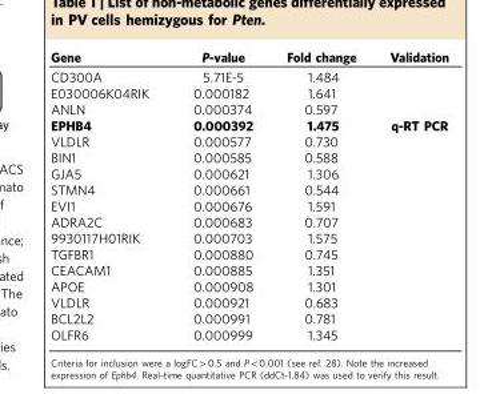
<table><thead><tr><td>Gene</td><td>P-value</td><td>Fold change</td><td>Validation</td></tr></thead><tbody><tr><td>CD300A</td><td>5.71E-5</td><td>1.484</td><td></td></tr><tr><td>E030006K04RIK</td><td>0.000182</td><td>1.641</td><td></td></tr><tr><td>ANLN</td><td>0.000374</td><td>0.597</td><td></td></tr><tr><td>EPHB4</td><td>0.000392</td><td>1.475</td><td>q-RT PCR</td></tr><tr><td>VLDLR</td><td>0.000577</td><td>0.730</td><td></td></tr><tr><td>BIN1</td><td>0.000585</td><td>0.588</td><td></td></tr><tr><td>GJA5</td><td>0.000621</td><td>1.306</td><td></td></tr><tr><td>STMN4</td><td>0.000661</td><td>0.544</td><td></td></tr><tr><td>EVI1</td><td>0.000676</td><td>1.591</td><td></td></tr><tr><td>ADRA2C</td><td>0.000683</td><td>0.707</td><td></td></tr><tr><td>9930117H01RIK</td><td>0.000703</td><td>1.575</td><td></td></tr><tr><td>TGFBR1</td><td>0.000880</td><td>0.745</td><td></td></tr><tr><td>CEACAM1</td><td>0.000885</td><td>1.351</td><td></td></tr><tr><td>APOE</td><td>0.000908</td><td>1.301</td><td></td></tr><tr><td>VLDLR</td><td>0.000921</td><td>0.683</td><td></td></tr><tr><td>BCL2L2</td><td>0.000991</td><td>0.781</td><td></td></tr><tr><td>OLFR6</td><td>0.000999</td><td>1.345</td><td></td></tr></tbody></table>